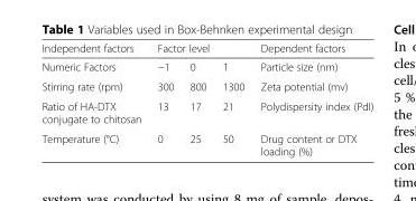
<table><thead><tr><td rowspan="2">Independent factors Numeric Factors</td><td colspan="3">Factor level</td><td rowspan="2">Dependent factors Particle size (nm)</td></tr><tr><td>−1</td><td>0</td><td>1</td></tr></thead><tbody><tr><td>Stirring rate (rpm)</td><td>300</td><td>800</td><td>1300</td><td>Zeta potential (mv)</td></tr><tr><td>Ratio of HA-DTX conjugate to chitosan</td><td>13</td><td>17</td><td>21</td><td>Polydispersity index (PdI)</td></tr><tr><td>Temperature (°C)</td><td>0</td><td>25</td><td>50</td><td>Drug content or DTX loading (%)</td></tr></tbody></table>